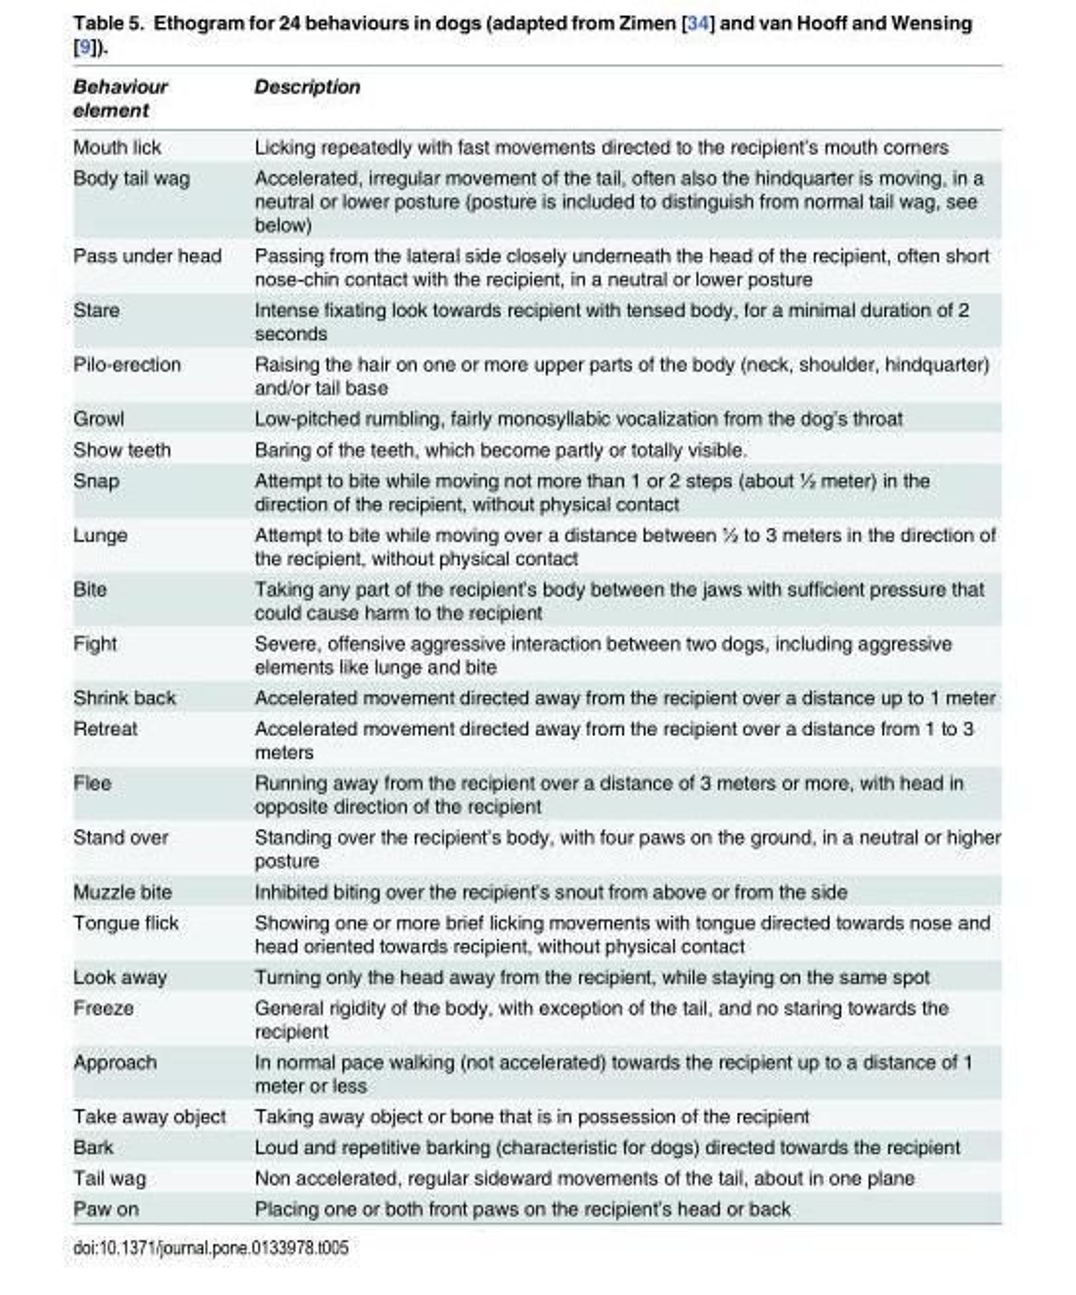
<table><thead><tr><td>Behaviour element</td><td>Description</td></tr></thead><tbody><tr><td>Mouth lick</td><td>Licking repeatedly with fast movements directed to the recipient’s mouth corners</td></tr><tr><td>Body tail wag</td><td>Accelerated, irregular movement of the tail, often also the hindquarter is moving, in a neutral or lower posture (posture is included to distinguish from normal tail wag, see below)</td></tr><tr><td>Pass under head</td><td>Passing from the lateral side closely underneath the head of the recipient, often short nose-chin contact with the recipient, in a neutral or lower posture</td></tr><tr><td>Stare</td><td>Intense fixating look towards recipient with tensed body, for a minimal duration of 2 seconds</td></tr><tr><td>Pilo-erection</td><td>Raising the hair on one or more upper parts of the body (neck, shoulder, hindquarter) and/or tail base</td></tr><tr><td>Growl</td><td>Low-pitched rumbling, fairly monosyllabic vocalization from the dog’s throat</td></tr><tr><td>Show teeth</td><td>Baring of the teeth, which become partly or totally visible.</td></tr><tr><td>Snap</td><td>Attempt to bite while moving not more than 1 or 2 steps (about ½ meter) in the direction of the recipient, without physical contact</td></tr><tr><td>Lunge</td><td>Attempt to bite while moving over a distance between ½ to 3 meters in the direction of the recipient, without physical contact</td></tr><tr><td>Bite</td><td>Taking any part of the recipient’s body between the jaws with sufficient pressure that could cause harm to the recipient</td></tr><tr><td>Fight</td><td>Severe, offensive aggressive interaction between two dogs, including aggressive elements like lunge and bite</td></tr><tr><td>Shrink back</td><td>Accelerated movement directed away from the recipient over a distance up to 1 meter</td></tr><tr><td>Retreat</td><td>Accelerated movement directed away from the recipient over a distance from 1 to 3 meters</td></tr><tr><td>Flee</td><td>Running away from the recipient over a distance of 3 meters or more, with head in opposite direction of the recipient</td></tr><tr><td>Stand over</td><td>Standing over the recipient’s body, with four paws on the ground, in a neutral or higher posture</td></tr><tr><td>Muzzle bite</td><td>Inhibited biting over the recipient’s snout from above or from the side</td></tr><tr><td>Tongue flick</td><td>Showing one or more brief licking movements with tongue directed towards nose and head oriented towards recipient, without physical contact</td></tr><tr><td>Look away</td><td>Turning only the head away from the recipient, while staying on the same spot</td></tr><tr><td>Freeze</td><td>General rigidity of the body, with exception of the tail, and no staring towards the recipient</td></tr><tr><td>Approach</td><td>In normal pace walking (not accelerated) towards the recipient up to a distance of 1 meter or less</td></tr><tr><td>Take away object</td><td>Taking away object or bone that is in possession of the recipient</td></tr><tr><td>Bark</td><td>Loud and repetitive barking (characteristic for dogs) directed towards the recipient</td></tr><tr><td>Tail wag</td><td>Non accelerated, regular sideward movements of the tail, about in one plane</td></tr><tr><td>Paw on</td><td>Placing one or both front paws on the recipient’s head or back</td></tr></tbody></table>